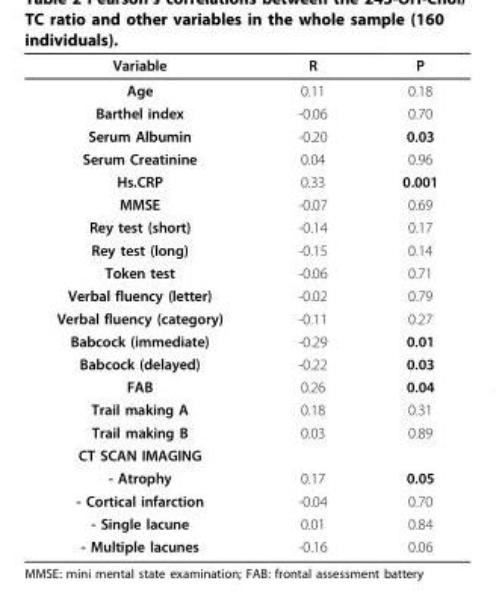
<table><thead><tr><td>Variable</td><td>R</td><td>P</td></tr></thead><tbody><tr><td>Age</td><td>0.11</td><td>0.18</td></tr><tr><td>Barthel index</td><td>-0.06</td><td>0.70</td></tr><tr><td>Serum Albumin</td><td>-0.20</td><td>0.03</td></tr><tr><td>Serum Creatinine</td><td>0.04</td><td>0.96</td></tr><tr><td>Hs.CRP</td><td>0.33</td><td>0.001</td></tr><tr><td>MMSE</td><td>-0.07</td><td>0.69</td></tr><tr><td>Rey test (short)</td><td>-0.14</td><td>0.17</td></tr><tr><td>Rey test (long)</td><td>-0.15</td><td>0.14</td></tr><tr><td>Token test</td><td>-0.06</td><td>0.71</td></tr><tr><td>Verbal fluency (letter)</td><td>-0.02</td><td>0.79</td></tr><tr><td>Verbal fluency (category)</td><td>-0.11</td><td>0.27</td></tr><tr><td>Babcock (immediate)</td><td>-0.29</td><td>0.01</td></tr><tr><td>Babcock (delayed)</td><td>-0.22</td><td>0.03</td></tr><tr><td>FAB</td><td>0.26</td><td>0.04</td></tr><tr><td>Trail making A</td><td>0.18</td><td>0.31</td></tr><tr><td>Trail making B</td><td>0.03</td><td>0.89</td></tr><tr><td colspan="3">CT SCAN IMAGING</td></tr><tr><td>- Atrophy</td><td>0.17</td><td>0.05</td></tr><tr><td>- Cortical infarction</td><td>-0.04</td><td>0.70</td></tr><tr><td>- Single lacune</td><td>0.01</td><td>0.84</td></tr><tr><td>- Multiple lacunes</td><td>-0.16</td><td>0.06</td></tr></tbody></table>